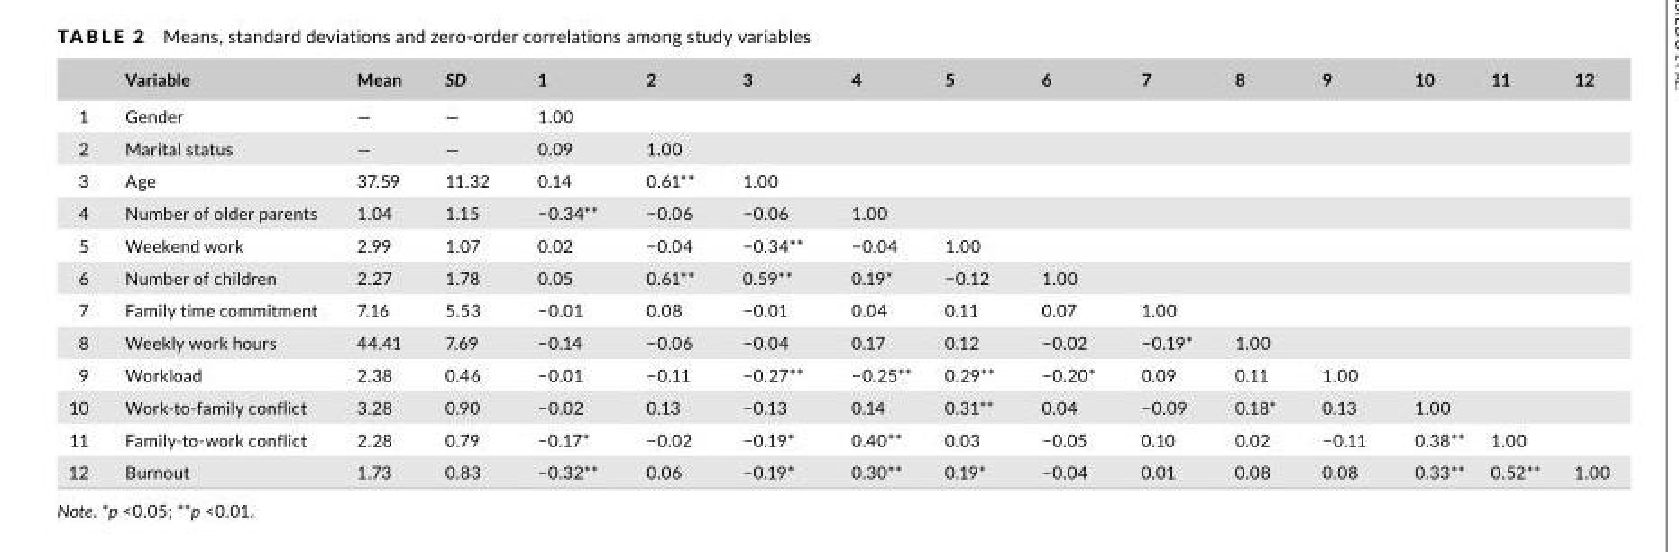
<table><thead><tr><td></td><td>Variable</td><td>Mean</td><td>SD</td><td>1</td><td>2</td><td>3</td><td>4</td><td>5</td><td>6</td><td>7</td><td>8</td><td>9</td><td>10</td><td>11</td><td>12</td></tr></thead><tbody><tr><td>1</td><td>Gender</td><td>—</td><td>—</td><td>1.00</td><td></td><td></td><td></td><td></td><td></td><td></td><td></td><td></td><td></td><td></td><td></td></tr><tr><td>2</td><td>Marital status</td><td>—</td><td>—</td><td>0.09</td><td>1.00</td><td></td><td></td><td></td><td></td><td></td><td></td><td></td><td></td><td></td><td></td></tr><tr><td>3</td><td>Age</td><td>37.59</td><td>11.32</td><td>0.14</td><td>0.61**</td><td>1.00</td><td></td><td></td><td></td><td></td><td></td><td></td><td></td><td></td><td></td></tr><tr><td>4</td><td>Number of older parents</td><td>1.04</td><td>1.15</td><td>−0.34**</td><td>−0.06</td><td>−0.06</td><td>1.00</td><td></td><td></td><td></td><td></td><td></td><td></td><td></td><td></td></tr><tr><td>5</td><td>Weekend work</td><td>2.99</td><td>1.07</td><td>0.02</td><td>−0.04</td><td>−0.34**</td><td>−0.04</td><td>1.00</td><td></td><td></td><td></td><td></td><td></td><td></td><td></td></tr><tr><td>6</td><td>Number of children</td><td>2.27</td><td>1.78</td><td>0.05</td><td>0.61**</td><td>0.59**</td><td>0.19*</td><td>−0.12</td><td>1.00</td><td></td><td></td><td></td><td></td><td></td><td></td></tr><tr><td>7</td><td>Family time commitment</td><td>7.16</td><td>5.53</td><td>−0.01</td><td>0.08</td><td>−0.01</td><td>0.04</td><td>0.11</td><td>0.07</td><td>1.00</td><td></td><td></td><td></td><td></td><td></td></tr><tr><td>8</td><td>Weekly work hours</td><td>44.41</td><td>7.69</td><td>−0.14</td><td>−0.06</td><td>−0.04</td><td>0.17</td><td>0.12</td><td>−0.02</td><td>−0.19*</td><td>1.00</td><td></td><td></td><td></td><td></td></tr><tr><td>9</td><td>Workload</td><td>2.38</td><td>0.46</td><td>−0.01</td><td>−0.11</td><td>−0.27**</td><td>−0.25**</td><td>0.29**</td><td>−0.20*</td><td>0.09</td><td>0.11</td><td>1.00</td><td></td><td></td><td></td></tr><tr><td>10</td><td>Work‐to‐family conflict</td><td>3.28</td><td>0.90</td><td>−0.02</td><td>0.13</td><td>−0.13</td><td>0.14</td><td>0.31**</td><td>0.04</td><td>−0.09</td><td>0.18*</td><td>0.13</td><td>1.00</td><td></td><td></td></tr><tr><td>11</td><td>Family‐to‐work conflict</td><td>2.28</td><td>0.79</td><td>−0.17*</td><td>−0.02</td><td>−0.19*</td><td>0.40**</td><td>0.03</td><td>−0.05</td><td>0.10</td><td>0.02</td><td>−0.11</td><td>0.38**</td><td>1.00</td><td></td></tr><tr><td>12</td><td>Burnout</td><td>1.73</td><td>0.83</td><td>−0.32**</td><td>0.06</td><td>−0.19*</td><td>0.30**</td><td>0.19*</td><td>−0.04</td><td>0.01</td><td>0.08</td><td>0.08</td><td>0.33**</td><td>0.52**</td><td>1.00</td></tr></tbody></table>